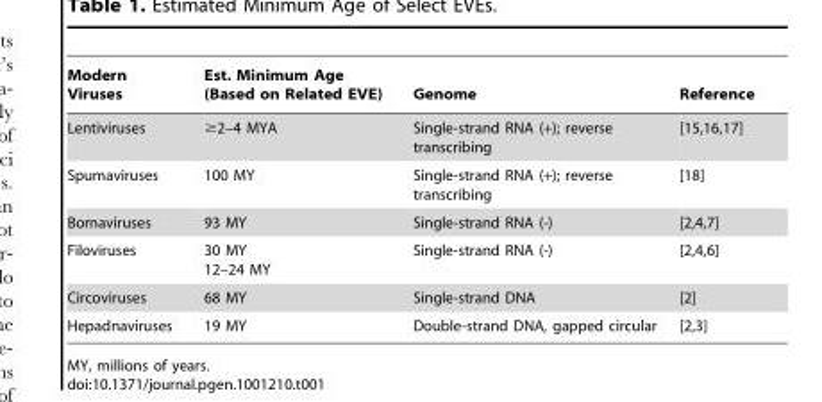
<table><thead><tr><td>Modern Viruses</td><td>Est. Minimum Age (Based on Related EVE)</td><td>Genome</td><td>Reference</td></tr></thead><tbody><tr><td>Lentiviruses</td><td>≥2–4 MYA</td><td>Single-strand RNA (+); reverse transcribing</td><td>[15,16,17]</td></tr><tr><td>Spumaviruses</td><td>100 MY</td><td>Single-strand RNA (+); reverse transcribing</td><td>[18]</td></tr><tr><td>Bornaviruses</td><td>93 MY</td><td>Single-strand RNA (-)</td><td>[2,4,7]</td></tr><tr><td>Filoviruses</td><td>30 MY 12–24 MY</td><td>Single-strand RNA (-)</td><td>[2,4,6]</td></tr><tr><td>Circoviruses</td><td>68 MY</td><td>Single-strand DNA</td><td>[2]</td></tr><tr><td>Hepadnaviruses</td><td>19 MY</td><td>Double-strand DNA, gapped circular</td><td>[2,3]</td></tr></tbody></table>